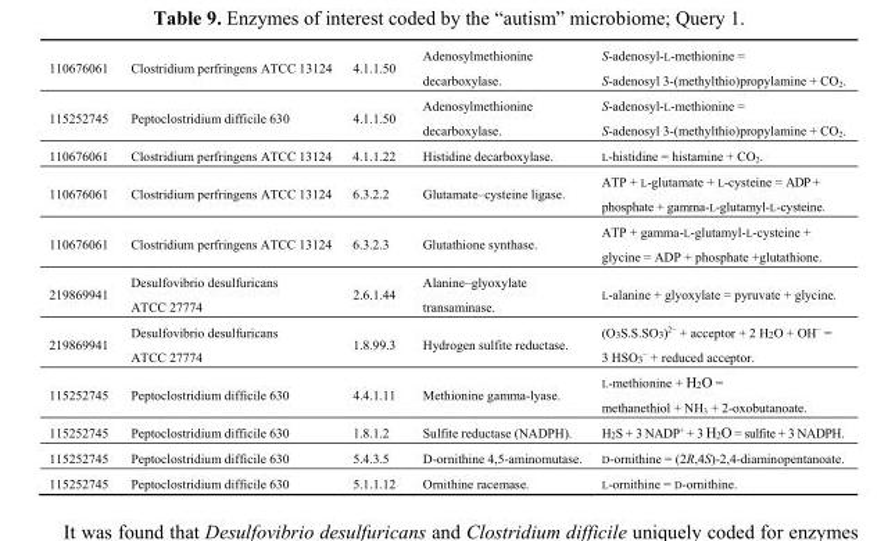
<table><tbody><tr><td>110676061</td><td>Clostridium perfringens ATCC 13124</td><td>4.1.1.50</td><td>Adenosylmethionine decarboxylase.</td><td>S-adenosyl-L-methionine = S-adenosyl 3-(methylthio)propylamine + CO<sub>2</sub>.</td></tr><tr><td>115252745</td><td>Peptoclostridium difficile 630</td><td>4.1.1.50</td><td>Adenosylmethionine decarboxylase.</td><td>S-adenosyl-L-methionine = S-adenosyl 3-(methylthio)propylamine + CO<sub>2</sub>.</td></tr><tr><td>110676061</td><td>Clostridium perfringens ATCC 13124</td><td>4.1.1.22</td><td>Histidine decarboxylase.</td><td>L-histidine = histamine + CO<sub>2</sub>.</td></tr><tr><td>110676061</td><td>Clostridium perfringens ATCC 13124</td><td>6.3.2.2</td><td>Glutamate–cysteine ligase.</td><td>ATP + L-glutamate + L-cysteine = ADP + phosphate + gamma-L-glutamyl-L-cysteine.</td></tr><tr><td>110676061</td><td>Clostridium perfringens ATCC 13124</td><td>6.3.2.3</td><td>Glutathione synthase.</td><td>ATP + gamma-L-glutamyl-L-cysteine + glycine = ADP + phosphate +glutathione.</td></tr><tr><td>219869941</td><td>Desulfovibrio desulfuricans ATCC 27774</td><td>2.6.1.44</td><td>Alanine–glyoxylate transaminase.</td><td>L-alanine + glyoxylate = pyruvate + glycine.</td></tr><tr><td>219869941</td><td>Desulfovibrio desulfuricans ATCC 27774</td><td>1.8.99.3</td><td>Hydrogen sulfite reductase.</td><td>(O<sub>3</sub>S.S.SO<sub>3</sub>)<sup>2−</sup> + acceptor + 2 H<sub>2</sub>O + OH<sup>−</sup> = 3 HSO<sub>3</sub><sup>−</sup> + reduced acceptor.</td></tr><tr><td>115252745</td><td>Peptoclostridium difficile 630</td><td>4.4.1.11</td><td>Methionine gamma-lyase.</td><td>L-methionine + H<sub>2</sub>O = methanethiol + NH<sub>3</sub> + 2-oxobutanoate.</td></tr><tr><td>115252745</td><td>Peptoclostridium difficile 630</td><td>1.8.1.2</td><td>Sulfite reductase (NADPH).</td><td>H<sub>2</sub>S + 3 NADP<sup>+</sup> + 3 H<sub>2</sub>O = sulfite + 3 NADPH.</td></tr><tr><td>115252745</td><td>Peptoclostridium difficile 630</td><td>5.4.3.5</td><td>D-ornithine 4,5-aminomutase.</td><td>D-ornithine = (2R,4S)-2,4-diaminopentanoate.</td></tr><tr><td>115252745</td><td>Peptoclostridium difficile 630</td><td>5.1.1.12</td><td>Ornithine racemase.</td><td>L-ornithine = D-ornithine.</td></tr></tbody></table>